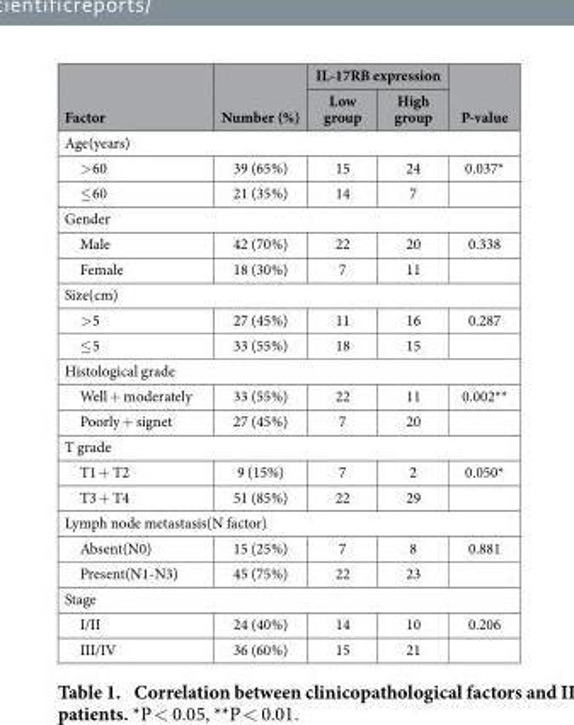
<table><thead><tr><td rowspan="2">Factor</td><td rowspan="2">Number (%)</td><td colspan="2">IL-17RB expression</td><td rowspan="2">P-value</td></tr><tr><td>Low group</td><td>High group</td></tr></thead><tbody><tr><td colspan="5">Age(years)</td></tr><tr><td>&gt; 60</td><td>39 (65%)</td><td>15</td><td>24</td><td>0.037*</td></tr><tr><td>≤ 60</td><td>21 (35%)</td><td>14</td><td>7</td><td></td></tr><tr><td colspan="5">Gender</td></tr><tr><td>Male</td><td>42 (70%)</td><td>22</td><td>20</td><td>0.338</td></tr><tr><td>Female</td><td>18 (30%)</td><td>7</td><td>11</td><td></td></tr><tr><td colspan="5">Size(cm)</td></tr><tr><td>&gt; 5</td><td>27 (45%)</td><td>11</td><td>16</td><td>0.287</td></tr><tr><td>≤ 5</td><td>33 (55%)</td><td>18</td><td>15</td><td></td></tr><tr><td colspan="5">Histological grade</td></tr><tr><td>Well + moderately</td><td>33 (55%)</td><td>22</td><td>11</td><td>0.002**</td></tr><tr><td>Poorly + signet</td><td>27 (45%)</td><td>7</td><td>20</td><td></td></tr><tr><td colspan="5">T grade</td></tr><tr><td>T1 + T2</td><td>9 (15%)</td><td>7</td><td>2</td><td>0.050*</td></tr><tr><td>T3 + T4</td><td>51 (85%)</td><td>22</td><td>29</td><td></td></tr><tr><td colspan="5">Lymph node metastasis(N factor)</td></tr><tr><td>Absent(N0)</td><td>15 (25%)</td><td>7</td><td>8</td><td>0.881</td></tr><tr><td>Present(N1-N3)</td><td>45 (75%)</td><td>22</td><td>23</td><td></td></tr><tr><td colspan="5">Stage</td></tr><tr><td>I/II</td><td>24 (40%)</td><td>14</td><td>10</td><td>0.206</td></tr><tr><td>III/IV</td><td>36 (60%)</td><td>15</td><td>21</td><td></td></tr></tbody></table>